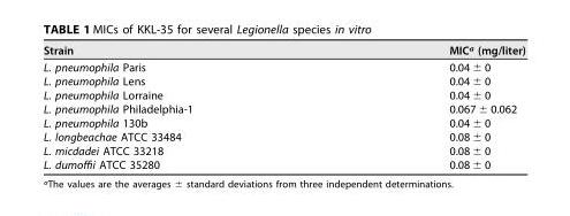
<table><thead><tr><td>Strain</td><td>MIC<sup>a</sup> (mg/liter)</td></tr></thead><tbody><tr><td>L. pneumophila Paris</td><td>0.04 ± 0</td></tr><tr><td>L. pneumophila Lens</td><td>0.04 ± 0</td></tr><tr><td>L. pneumophila Lorraine</td><td>0.04 ± 0</td></tr><tr><td>L. pneumophila Philadelphia-1</td><td>0.067 ± 0.062</td></tr><tr><td>L. pneumophila 130b</td><td>0.04 ± 0</td></tr><tr><td>L. longbeachae ATCC 33484</td><td>0.08 ± 0</td></tr><tr><td>L. micdadei ATCC 33218</td><td>0.08 ± 0</td></tr><tr><td>L. dumoffii ATCC 35280</td><td>0.08 ± 0</td></tr></tbody></table>